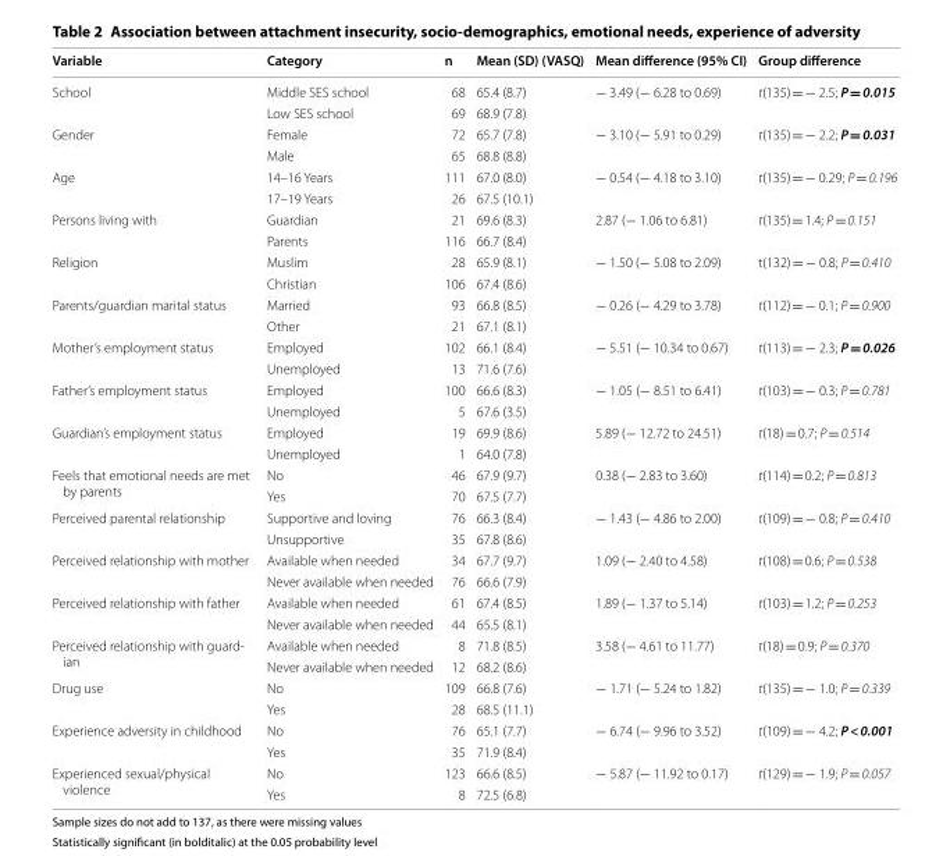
<table><thead><tr><td>Variable</td><td>Category</td><td>n</td><td>Mean (SD) (VASQ)</td><td>Mean difference (95% CI)</td><td>Group difference</td></tr></thead><tbody><tr><td rowspan="2">School</td><td>Middle SES school</td><td>68</td><td>65.4 (8.7)</td><td rowspan="2">− 3.49 (− 6.28 to 0.69)</td><td rowspan="2">t(135) = − 2.5; P = 0.015</td></tr><tr><td>Low SES school</td><td>69</td><td>68.9 (7.8)</td></tr><tr><td rowspan="2">Gender</td><td>Female</td><td>72</td><td>65.7 (7.8)</td><td rowspan="2">− 3.10 (− 5.91 to 0.29)</td><td rowspan="2">t(135) = − 2.2; P = 0.031</td></tr><tr><td>Male</td><td>65</td><td>68.8 (8.8)</td></tr><tr><td rowspan="2">Age</td><td>14–16 Years</td><td>111</td><td>67.0 (8.0)</td><td rowspan="2">− 0.54 (− 4.18 to 3.10)</td><td rowspan="2">t(135) = − 0.29; P = 0.196</td></tr><tr><td>17–19 Years</td><td>26</td><td>67.5 (10.1)</td></tr><tr><td rowspan="2">Persons living with</td><td>Guardian</td><td>21</td><td>69.6 (8.3)</td><td rowspan="2">2.87 (− 1.06 to 6.81)</td><td rowspan="2">t(135) = 1.4; P = 0.151</td></tr><tr><td>Parents</td><td>116</td><td>66.7 (8.4)</td></tr><tr><td rowspan="2">Religion</td><td>Muslim</td><td>28</td><td>65.9 (8.1)</td><td rowspan="2">− 1.50 (− 5.08 to 2.09)</td><td rowspan="2">t(132) = − 0.8; P = 0.410</td></tr><tr><td>Christian</td><td>106</td><td>67.4 (8.6)</td></tr><tr><td rowspan="2">Parents/guardian marital status</td><td>Married</td><td>93</td><td>66.8 (8.5)</td><td rowspan="2">− 0.26 (− 4.29 to 3.78)</td><td rowspan="2">t(112) = − 0.1; P = 0.900</td></tr><tr><td>Other</td><td>21</td><td>67.1 (8.1)</td></tr><tr><td rowspan="2">Mother’s employment status</td><td>Employed</td><td>102</td><td>66.1 (8.4)</td><td rowspan="2">− 5.51 (− 10.34 to 0.67)</td><td rowspan="2">t(113) = − 2.3; P = 0.026</td></tr><tr><td>Unemployed</td><td>13</td><td>71.6 (7.6)</td></tr><tr><td rowspan="2">Father’s employment status</td><td>Employed</td><td>100</td><td>66.6 (8.3)</td><td rowspan="2">− 1.05 (− 8.51 to 6.41)</td><td rowspan="2">t(103) = − 0.3; P = 0.781</td></tr><tr><td>Unemployed</td><td>5</td><td>67.6 (3.5)</td></tr><tr><td rowspan="2">Guardian’s employment status</td><td>Employed</td><td>19</td><td>69.9 (8.6)</td><td rowspan="2">5.89 (− 12.72 to 24.51)</td><td rowspan="2">t(18) = 0.7; P = 0.514</td></tr><tr><td>Unemployed</td><td>1</td><td>64.0 (7.8)</td></tr><tr><td rowspan="2">Feels that emotional needs are met by parents</td><td>No</td><td>46</td><td>67.9 (9.7)</td><td rowspan="2">0.38 (− 2.83 to 3.60)</td><td rowspan="2">t(114) = 0.2; P = 0.813</td></tr><tr><td>Yes</td><td>70</td><td>67.5 (7.7)</td></tr><tr><td rowspan="2">Perceived parental relationship</td><td>Supportive and loving</td><td>76</td><td>66.3 (8.4)</td><td rowspan="2">− 1.43 (− 4.86 to 2.00)</td><td rowspan="2">t(109) = − 0.8; P = 0.410</td></tr><tr><td>Unsupportive</td><td>35</td><td>67.8 (8.6)</td></tr><tr><td rowspan="2">Perceived relationship with mother</td><td>Available when needed</td><td>34</td><td>67.7 (9.7)</td><td rowspan="2">1.09 (− 2.40 to 4.58)</td><td rowspan="2">t(108) = 0.6; P = 0.538</td></tr><tr><td>Never available when needed</td><td>76</td><td>66.6 (7.9)</td></tr><tr><td rowspan="2">Perceived relationship with father</td><td>Available when needed</td><td>61</td><td>67.4 (8.5)</td><td rowspan="2">1.89 (− 1.37 to 5.14)</td><td rowspan="2">t(103) = 1.2; P = 0.253</td></tr><tr><td>Never available when needed</td><td>44</td><td>65.5 (8.1)</td></tr><tr><td rowspan="2">Perceived relationship with guard- ian</td><td>Available when needed</td><td>8</td><td>71.8 (8.5)</td><td rowspan="2">3.58 (− 4.61 to 11.77)</td><td rowspan="2">t(18) = 0.9; P = 0.370</td></tr><tr><td>Never available when needed</td><td>12</td><td>68.2 (8.6)</td></tr><tr><td rowspan="2">Drug use</td><td>No</td><td>109</td><td>66.8 (7.6)</td><td rowspan="2">− 1.71 (− 5.24 to 1.82)</td><td rowspan="2">t(135) = − 1.0; P = 0.339</td></tr><tr><td>Yes</td><td>28</td><td>68.5 (11.1)</td></tr><tr><td rowspan="2">Experience adversity in childhood</td><td>No</td><td>76</td><td>65.1 (7.7)</td><td rowspan="2">− 6.74 (− 9.96 to 3.52)</td><td rowspan="2">t(109) = − 4.2; P &lt; 0.001</td></tr><tr><td>Yes</td><td>35</td><td>71.9 (8.4)</td></tr><tr><td rowspan="2">Experienced sexual/physical violence</td><td>No</td><td>123</td><td>66.6 (8.5)</td><td rowspan="2">− 5.87 (− 11.92 to 0.17)</td><td rowspan="2">t(129) = − 1.9; P = 0.057</td></tr><tr><td>Yes</td><td>8</td><td>72.5 (6.8)</td></tr></tbody></table>